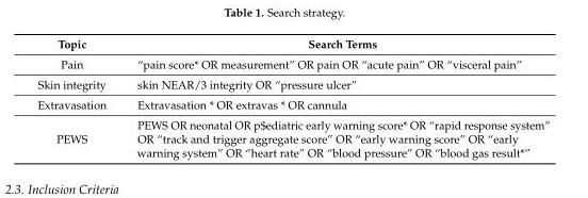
<table><thead><tr><td>Topic</td><td>Search Terms</td></tr></thead><tbody><tr><td>Pain</td><td>“pain score* OR measurement” OR pain OR “acute pain” OR “visceral pain”</td></tr><tr><td>Skin integrity</td><td>skin NEAR/3 integrity OR “pressure ulcer”</td></tr><tr><td>Extravasation</td><td>Extravasation * OR extravas * OR cannula</td></tr><tr><td>PEWS</td><td>PEWS OR neonatal OR p$ediatric early warning score* OR “rapid response system” OR “track and trigger aggregate score” OR “early warning score” OR “early warning system” OR “heart rate” OR “blood pressure” OR “blood gas result*”</td></tr></tbody></table>